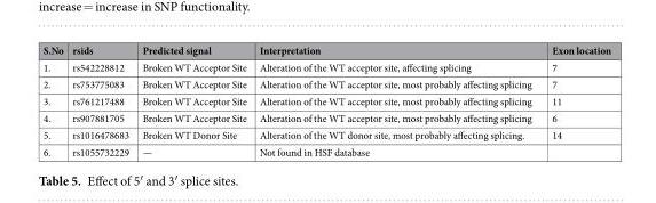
<table><thead><tr><td>S.No</td><td>rsids</td><td>Predicted signal</td><td>Interpretation</td><td>Exon location</td></tr></thead><tbody><tr><td>1.</td><td>rs542228812</td><td>Broken WT Acceptor Site</td><td>Alteration of the WT acceptor site, affecting splicing</td><td>7</td></tr><tr><td>2.</td><td>rs753775083</td><td>Broken WT Acceptor Site</td><td>Alteration of the WT acceptor site, most probably affecting splicing</td><td>7</td></tr><tr><td>3.</td><td>rs761217488</td><td>Broken WT Acceptor Site</td><td>Alteration of the WT acceptor site, most probably affecting splicing</td><td>11</td></tr><tr><td>4.</td><td>rs907881705</td><td>Broken WT Acceptor Site</td><td>Alteration of the WT acceptor site, most probably affecting splicing</td><td>6</td></tr><tr><td>5.</td><td>rs1016478683</td><td>Broken WT Donor Site</td><td>Alteration of the WT donor site, most probably affecting splicing.</td><td>14</td></tr><tr><td>6.</td><td>rs1055732229</td><td>—</td><td>Not found in HSF database</td><td></td></tr></tbody></table>